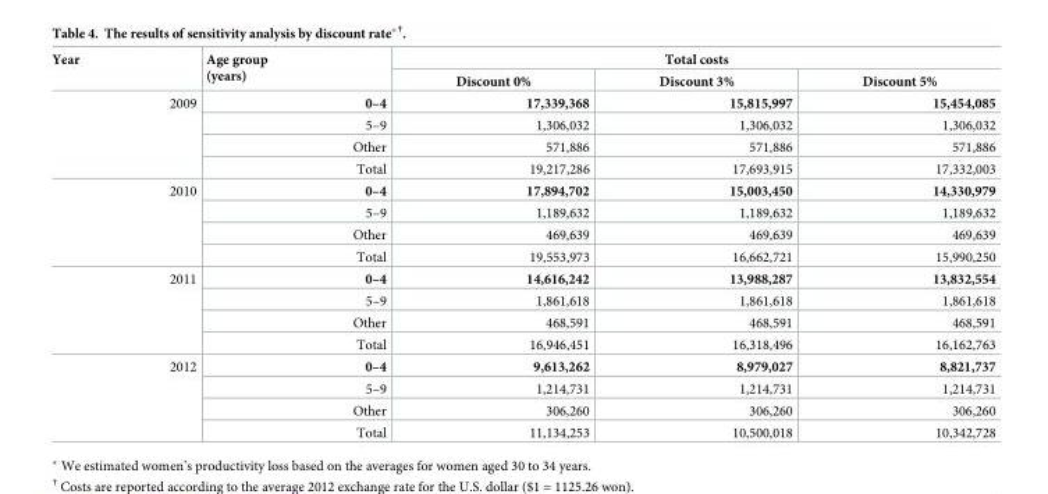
<table><thead><tr><td rowspan="2">Year</td><td rowspan="2">Age group (years)</td><td colspan="3">Total costs</td></tr><tr><td>Discount 0%</td><td>Discount 3%</td><td>Discount 5%</td></tr></thead><tbody><tr><td rowspan="4">2009</td><td>0–4</td><td>17,339,368</td><td>15,815,997</td><td>15,454,085</td></tr><tr><td>5–9</td><td>1,306,032</td><td>1,306,032</td><td>1,306,032</td></tr><tr><td>Other</td><td>571,886</td><td>571,886</td><td>571,886</td></tr><tr><td>Total</td><td>19,217,286</td><td>17,693,915</td><td>17,332,003</td></tr><tr><td rowspan="4">2010</td><td>0–4</td><td>17,894,702</td><td>15,003,450</td><td>14,330,979</td></tr><tr><td>5–9</td><td>1,189,632</td><td>1,189,632</td><td>1,189,632</td></tr><tr><td>Other</td><td>469,639</td><td>469,639</td><td>469,639</td></tr><tr><td>Total</td><td>19,553,973</td><td>16,662,721</td><td>15,990,250</td></tr><tr><td rowspan="4">2011</td><td>0–4</td><td>14,616,242</td><td>13,988,287</td><td>13,832,554</td></tr><tr><td>5–9</td><td>1,861,618</td><td>1,861,618</td><td>1,861,618</td></tr><tr><td>Other</td><td>468,591</td><td>468,591</td><td>468,591</td></tr><tr><td>Total</td><td>16,946,451</td><td>16,318,496</td><td>16,162,763</td></tr><tr><td rowspan="4">2012</td><td>0–4</td><td>9,613,262</td><td>8,979,027</td><td>8,821,737</td></tr><tr><td>5–9</td><td>1,214,731</td><td>1,214,731</td><td>1,214,731</td></tr><tr><td>Other</td><td>306,260</td><td>306,260</td><td>306,260</td></tr><tr><td>Total</td><td>11,134,253</td><td>10,500,018</td><td>10,342,728</td></tr></tbody></table>